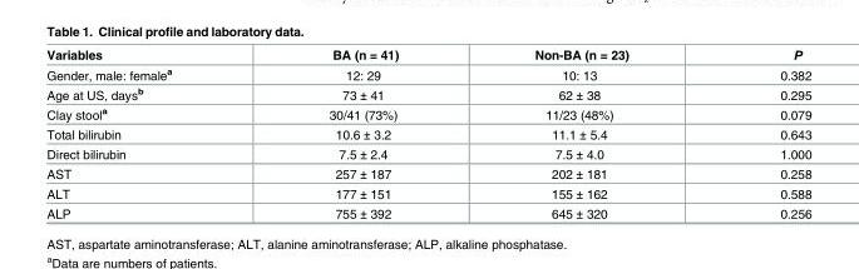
<table><thead><tr><td>Variables</td><td>BA (n = 41)</td><td>Non-BA (n = 23)</td><td>P</td></tr></thead><tbody><tr><td>Gender, male: female<sup>a</sup></td><td>12: 29</td><td>10: 13</td><td>0.382</td></tr><tr><td>Age at US, days<sup>b</sup></td><td>73 ± 41</td><td>62 ± 38</td><td>0.295</td></tr><tr><td>Clay stool<sup>a</sup></td><td>30/41 (73%)</td><td>11/23 (48%)</td><td>0.079</td></tr><tr><td>Total bilirubin</td><td>10.6 ± 3.2</td><td>11.1 ± 5.4</td><td>0.643</td></tr><tr><td>Direct bilirubin</td><td>7.5 ± 2.4</td><td>7.5 ± 4.0</td><td>1.000</td></tr><tr><td>AST</td><td>257 ± 187</td><td>202 ± 181</td><td>0.258</td></tr><tr><td>ALT</td><td>177 ± 151</td><td>155 ± 162</td><td>0.588</td></tr><tr><td>ALP</td><td>755 ± 392</td><td>645 ± 320</td><td>0.256</td></tr></tbody></table>